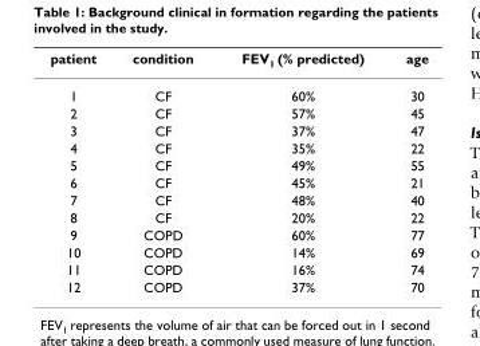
<table><thead><tr><td>patient</td><td>condition</td><td>FEV1 (% predicted)</td><td>age</td></tr></thead><tbody><tr><td>1</td><td>CF</td><td>60%</td><td>30</td></tr><tr><td>2</td><td>CF</td><td>57%</td><td>45</td></tr><tr><td>3</td><td>CF</td><td>37%</td><td>47</td></tr><tr><td>4</td><td>CF</td><td>35%</td><td>22</td></tr><tr><td>5</td><td>CF</td><td>49%</td><td>55</td></tr><tr><td>6</td><td>CF</td><td>45%</td><td>21</td></tr><tr><td>7</td><td>CF</td><td>48%</td><td>40</td></tr><tr><td>8</td><td>CF</td><td>20%</td><td>22</td></tr><tr><td>9</td><td>COPD</td><td>60%</td><td>77</td></tr><tr><td>10</td><td>COPD</td><td>14%</td><td>69</td></tr><tr><td>11</td><td>COPD</td><td>16%</td><td>74</td></tr><tr><td>12</td><td>COPD</td><td>37%</td><td>70</td></tr></tbody></table>